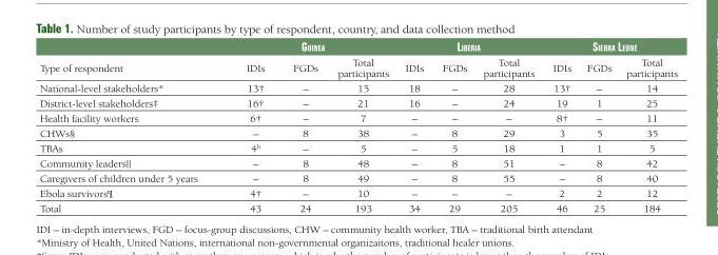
<table><thead><tr><td rowspan="2">Type of respondent</td><td colspan="3">Guinea</td><td colspan="3">Liberia</td><td colspan="3">Sierra Leone</td></tr><tr><td>IDIs</td><td>FGDs</td><td>Total participants</td><td>IDIs</td><td>FGDs</td><td>Total participants</td><td>IDIs</td><td>FGDs</td><td>Total participants</td></tr></thead><tbody><tr><td>National-level stakeholders*</td><td>13†</td><td>–</td><td>15</td><td>18</td><td>–</td><td>28</td><td>13†</td><td>–</td><td>14</td></tr><tr><td>District-level stakeholders‡</td><td>16†</td><td>–</td><td>21</td><td>16</td><td>–</td><td>24</td><td>19</td><td>1</td><td>25</td></tr><tr><td>Health facility workers</td><td>6†</td><td>–</td><td>7</td><td>–</td><td>–</td><td>–</td><td>8†</td><td>–</td><td>11</td></tr><tr><td>CHWs§</td><td>–</td><td>8</td><td>38</td><td>–</td><td>8</td><td>29</td><td>3</td><td>5</td><td>35</td></tr><tr><td>TBAs</td><td>4<sup>b</sup></td><td>–</td><td>5</td><td>–</td><td>5</td><td>18</td><td>1</td><td>1</td><td>5</td></tr><tr><td>Community leaders||</td><td>–</td><td>8</td><td>48</td><td>–</td><td>8</td><td>51</td><td>–</td><td>8</td><td>42</td></tr><tr><td>Caregivers of children under 5 years</td><td>–</td><td>8</td><td>49</td><td>–</td><td>8</td><td>55</td><td>–</td><td>8</td><td>40</td></tr><tr><td>Ebola survivors¶</td><td>4†</td><td>–</td><td>10</td><td>–</td><td>–</td><td>–</td><td>2</td><td>2</td><td>12</td></tr><tr><td>Total</td><td>43</td><td>24</td><td>193</td><td>34</td><td>29</td><td>205</td><td>46</td><td>25</td><td>184</td></tr></tbody></table>